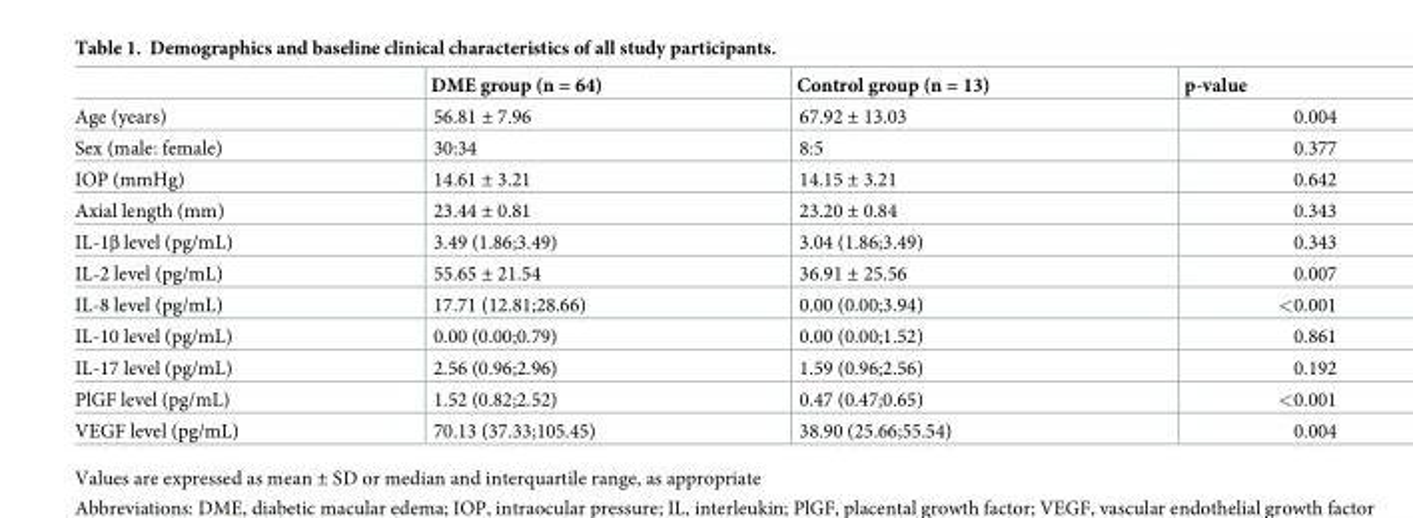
<table><thead><tr><td></td><td>DME group (n = 64)</td><td>Control group (n = 13)</td><td>p-value</td></tr></thead><tbody><tr><td>Age (years)</td><td>56.81 ± 7.96</td><td>67.92 ± 13.03</td><td>0.004</td></tr><tr><td>Sex (male: female)</td><td>30:34</td><td>8:5</td><td>0.377</td></tr><tr><td>IOP (mmHg)</td><td>14.61 ± 3.21</td><td>14.15 ± 3.21</td><td>0.642</td></tr><tr><td>Axial length (mm)</td><td>23.44 ± 0.81</td><td>23.20 ± 0.84</td><td>0.343</td></tr><tr><td>IL-1β level (pg/mL)</td><td>3.49 (1.86;3.49)</td><td>3.04 (1.86;3.49)</td><td>0.343</td></tr><tr><td>IL-2 level (pg/mL)</td><td>55.65 ± 21.54</td><td>36.91 ± 25.56</td><td>0.007</td></tr><tr><td>IL-8 level (pg/mL)</td><td>17.71 (12.81;28.66)</td><td>0.00 (0.00;3.94)</td><td>&lt;0.001</td></tr><tr><td>IL-10 level (pg/mL)</td><td>0.00 (0.00;0.79)</td><td>0.00 (0.00;1.52)</td><td>0.861</td></tr><tr><td>IL-17 level (pg/mL)</td><td>2.56 (0.96;2.96)</td><td>1.59 (0.96;2.56)</td><td>0.192</td></tr><tr><td>PlGF level (pg/mL)</td><td>1.52 (0.82;2.52)</td><td>0.47 (0.47;0.65)</td><td>&lt;0.001</td></tr><tr><td>VEGF level (pg/mL)</td><td>70.13 (37.33;105.45)</td><td>38.90 (25.66;55.54)</td><td>0.004</td></tr></tbody></table>